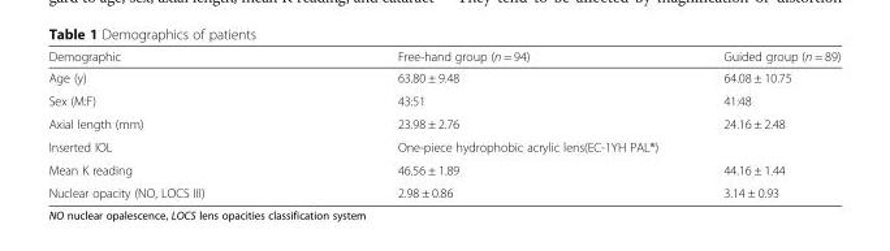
<table><thead><tr><td>Demographic</td><td>Free-hand group (n = 94)</td><td>Guided group (n = 89)</td></tr></thead><tbody><tr><td>Age (y)</td><td>63.80 ± 9.48</td><td>64.08 ± 10.75</td></tr><tr><td>Sex (M:F)</td><td>43:51</td><td>41:48</td></tr><tr><td>Axial length (mm)</td><td>23.98 ± 2.76</td><td>24.16 ± 2.48</td></tr><tr><td>Inserted IOL</td><td colspan="2">One-piece hydrophobic acrylic lens(EC-1YH PAL®)</td></tr><tr><td>Mean K reading</td><td>46.56 ± 1.89</td><td>44.16 ± 1.44</td></tr><tr><td>Nuclear opacity (NO, LOCS III)</td><td>2.98 ± 0.86</td><td>3.14 ± 0.93</td></tr></tbody></table>